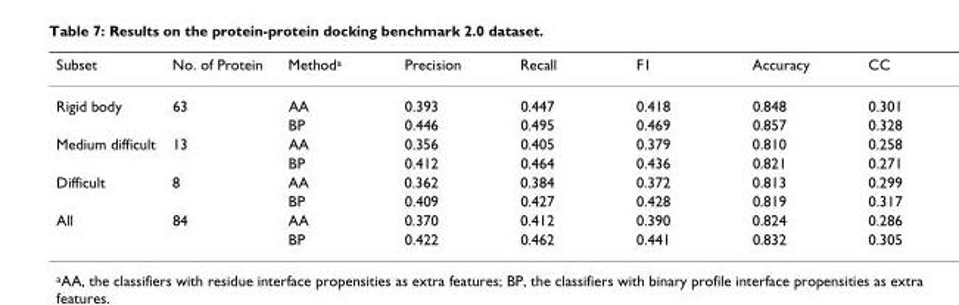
<table><thead><tr><td>Subset</td><td>No. of Protein</td><td>Method<sup>a</sup></td><td>Precision</td><td>Recall</td><td>F1</td><td>Accuracy</td><td>CC</td></tr></thead><tbody><tr><td rowspan="2">Rigid body</td><td>63</td><td>AA</td><td>0.393</td><td>0.447</td><td>0.418</td><td>0.848</td><td>0.301</td></tr><tr><td></td><td>BP</td><td>0.446</td><td>0.495</td><td>0.469</td><td>0.857</td><td>0.328</td></tr><tr><td rowspan="2">Medium difficult</td><td>13</td><td>AA</td><td>0.356</td><td>0.405</td><td>0.379</td><td>0.810</td><td>0.258</td></tr><tr><td></td><td>BP</td><td>0.412</td><td>0.464</td><td>0.436</td><td>0.821</td><td>0.271</td></tr><tr><td rowspan="2">Difficult</td><td>8</td><td>AA</td><td>0.362</td><td>0.384</td><td>0.372</td><td>0.813</td><td>0.299</td></tr><tr><td></td><td>BP</td><td>0.409</td><td>0.427</td><td>0.428</td><td>0.819</td><td>0.317</td></tr><tr><td rowspan="2">All</td><td>84</td><td>AA</td><td>0.370</td><td>0.412</td><td>0.390</td><td>0.824</td><td>0.286</td></tr><tr><td></td><td>BP</td><td>0.422</td><td>0.462</td><td>0.441</td><td>0.832</td><td>0.305</td></tr></tbody></table>